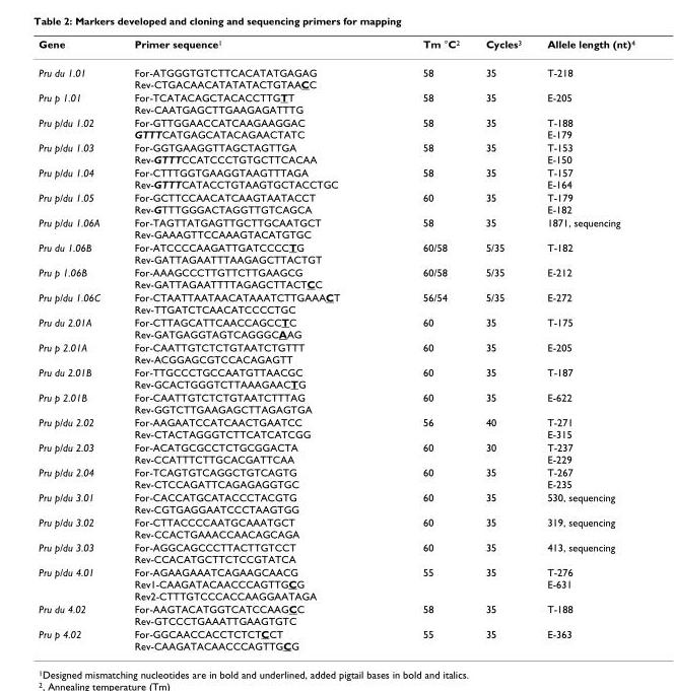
<table><thead><tr><td>Gene</td><td>Primer sequence<sup>1</sup></td><td>Tm °C<sup>2</sup></td><td>Cycles<sup>3</sup></td><td>Allele length (nt)<sup>4</sup></td></tr></thead><tbody><tr><td>Pru du 1.01</td><td>For-ATGGGTGTCTTCACATATGAGAG Rev-CTGACAACATATATACTGTAACC</td><td>58</td><td>35</td><td>T-218</td></tr><tr><td>Pru p 1.01</td><td>For-TCATACAGCTACACCTTGTT Rev-CAATGAGCTTGAAGAGATTTG</td><td>58</td><td>35</td><td>E-205</td></tr><tr><td>Pru p/du 1.02</td><td>For-GTTGGAACCATCAAGAAGGAC GTTTCATGAGCATACAGAACTATC</td><td>58</td><td>35</td><td>T-188 E-179</td></tr><tr><td>Pru p/du 1.03</td><td>For-GGTGAAGGTTAGCTAGTTGA Rev-GTTTCCATCCCTGTGCTTCACAA</td><td>58</td><td>35</td><td>T-153 E-150</td></tr><tr><td>Pru p/du 1.04</td><td>For-CTTTGGTGAAGGTAAGTTTAGA Rev-GTTTCATACCTGTAAGTGCTACCTGC</td><td>58</td><td>35</td><td>T-157 E-164</td></tr><tr><td>Pru p/du 1.05</td><td>For-GCTTCCAACATCAAGTAATACCT Rev-GTTTGGGACTAGGTTGTCAGCA</td><td>60</td><td>35</td><td>T-179 E-182</td></tr><tr><td>Pru p/du 1.06A</td><td>For-TAGTTATGAGTTGCTTGCAATGCT Rev-GAAAGTTCCAAAGTACATGTGC</td><td>58</td><td>35</td><td>1871, sequencing</td></tr><tr><td>Pru du 1.06B</td><td>For-ATCCCCAAGATTGATCCCCTG Rev-GATTAGAATTTAAGAGCTTACTGT</td><td>60/58</td><td>5/35</td><td>T-182</td></tr><tr><td>Pru p 1.06B</td><td>For-AAAGCCCTTGTTCTTGAAGCG Rev-GATTAGAATTTTAGAGCTTACTCC</td><td>60/58</td><td>5/35</td><td>E-212</td></tr><tr><td>Pru p/du 1.06C</td><td>For-CTAATTAATAACATAAATCTTGAAACT Rev-TTGATCTCAACATCCCCTGC</td><td>56/54</td><td>5/35</td><td>E-272</td></tr><tr><td>Pru du 2.01A</td><td>For-CTTAGCATTCAACCAGCCTC Rev-GATGAGGTAGTCAGGGCAAG</td><td>60</td><td>35</td><td>T-175</td></tr><tr><td>Pru p 2.01A</td><td>For-CAATTGTCTCTGTAATCTGTTT Rev-ACGGAGCGTCCACAGAGTT</td><td>60</td><td>35</td><td>E-205</td></tr><tr><td>Pru du 2.01B</td><td>For-TTGCCCTGCCAATGTTAACGC Rev-GCACTGGGTCTTAAAGAACTG</td><td>60</td><td>35</td><td>T-187</td></tr><tr><td>Pru p 2.01B</td><td>For-CAATTGTCTCTGTAATCTTTAG Rev-GGTCTTGAAGAGCTTAGAGTGA</td><td>60</td><td>35</td><td>E-622</td></tr><tr><td>Pru p/du 2.02</td><td>For-AAGAATCCATCAACTGAATCC Rev-CTACTAGGGTCTTCATCATCGG</td><td>56</td><td>40</td><td>T-271 E-315</td></tr><tr><td>Pru p/du 2.03</td><td>For-ACATGCGCCTCTGCGGACTA Rev-CCATTTCTTGCACGATTCAA</td><td>60</td><td>30</td><td>T-237 E-229</td></tr><tr><td>Pru p/du 2.04</td><td>For-TCAGTGTCAGGCTGTCAGTG Rev-CTCCAGATTCAGAGAGGTGC</td><td>60</td><td>35</td><td>T-267 E-235</td></tr><tr><td>Pru p/du 3.01</td><td>For-CACCATGCATACCCTACGTG Rev-CGTGAGGAATCCCTAAGTGG</td><td>60</td><td>35</td><td>530, sequencing</td></tr><tr><td>Pru p/du 3.02</td><td>For-CTTACCCCAATGCAAATGCT Rev-CCACTGAAACCAACAGCAGA</td><td>60</td><td>35</td><td>319, sequencing</td></tr><tr><td>Pru p/du 3.03</td><td>For-AGGCAGCCCTTACTTGTCCT Rev-CCACATGCTTCTCCGTATCA</td><td>60</td><td>35</td><td>413, sequencing</td></tr><tr><td>Pru p/du 4.01</td><td>For-AGAAGAAATCAGAAGCAACG Rev1-CAAGATACAACCCAGTTGCG Rev2-CTTTGTCCCACCAAGGAATAGA</td><td>55</td><td>35</td><td>T-276 E-631</td></tr><tr><td>Pru du 4.02</td><td>For-AAGTACATGGTCATCCAAGCC Rev-GTCCCTGAAATTGAAGTGTC</td><td>58</td><td>35</td><td>T-188</td></tr><tr><td>Pru p 4.02</td><td>For-GGCAACCACCTCTCTCCT Rev-CAAGATACAACCCAGTTGCG</td><td>55</td><td>35</td><td>E-363</td></tr></tbody></table>